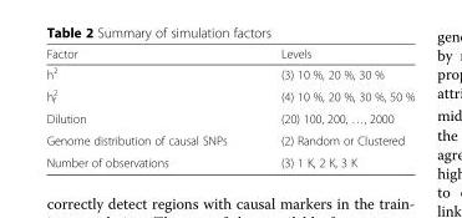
<table><thead><tr><td>Factor</td><td>Levels</td></tr></thead><tbody><tr><td>h<sup>2</sup></td><td>(3) 10 %, 20 %, 30 %</td></tr><tr><td>h<sub>f</sub> <sup>2</sup></td><td>(4) 10 %, 20 %, 30 %, 50 %</td></tr><tr><td>Dilution</td><td>(20) 100, 200, …, 2000</td></tr><tr><td>Genome distribution of causal SNPs</td><td>(2) Random or Clustered</td></tr><tr><td>Number of observations</td><td>(3) 1 K, 2 K, 3 K</td></tr></tbody></table>